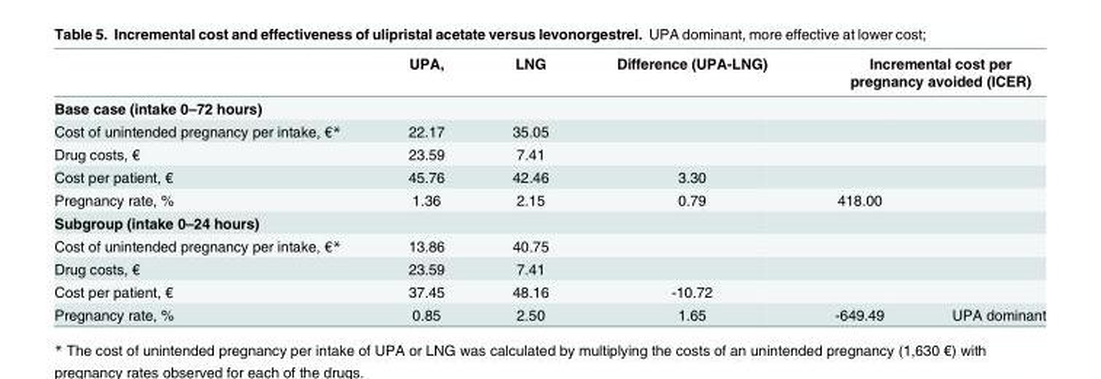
<table><thead><tr><td rowspan="2">Base case (intake 0–72 hours)</td><td rowspan="2">UPA,</td><td rowspan="2">LNG</td><td rowspan="2">Difference (UPA-LNG)</td><td colspan="2">Incremental cost per pregnancy avoided (ICER)</td></tr><tr><td></td><td></td></tr></thead><tbody><tr><td>Cost of unintended pregnancy per intake, €*</td><td>22.17</td><td>35.05</td><td></td><td></td><td></td></tr><tr><td>Drug costs, €</td><td>23.59</td><td>7.41</td><td></td><td></td><td></td></tr><tr><td>Cost per patient, €</td><td>45.76</td><td>42.46</td><td>3.30</td><td></td><td></td></tr><tr><td>Pregnancy rate, %</td><td>1.36</td><td>2.15</td><td>0.79</td><td>418.00</td><td></td></tr><tr><td colspan="6">Subgroup (intake 0–24 hours)</td></tr><tr><td>Cost of unintended pregnancy per intake, €*</td><td>13.86</td><td>40.75</td><td></td><td></td><td></td></tr><tr><td>Drug costs, €</td><td>23.59</td><td>7.41</td><td></td><td></td><td></td></tr><tr><td>Cost per patient, €</td><td>37.45</td><td>48.16</td><td>-10.72</td><td></td><td></td></tr><tr><td>Pregnancy rate, %</td><td>0.85</td><td>2.50</td><td>1.65</td><td>-649.49</td><td>UPA dominant</td></tr></tbody></table>